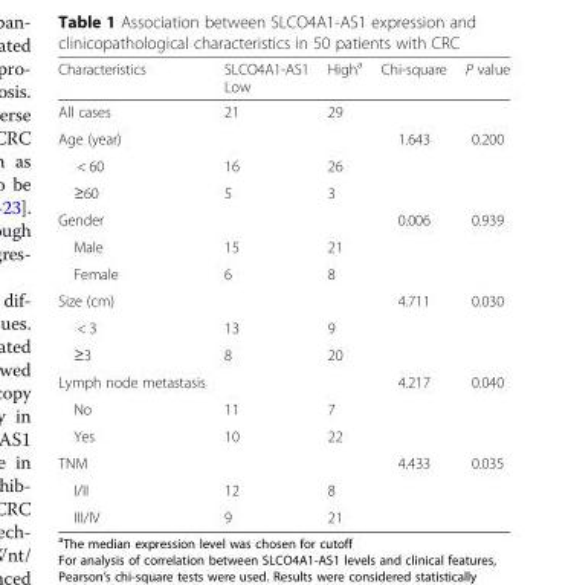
<table><thead><tr><td>Characteristics</td><td>SLCO4A1-AS1 Low</td><td>High<sup>a</sup></td><td>Chi-square</td><td>P value</td></tr></thead><tbody><tr><td>All cases</td><td>21</td><td>29</td><td></td><td></td></tr><tr><td>Age (year)</td><td></td><td></td><td>1.643</td><td>0.200</td></tr><tr><td>&lt; 60</td><td>16</td><td>26</td><td></td><td></td></tr><tr><td>≥60</td><td>5</td><td>3</td><td></td><td></td></tr><tr><td>Gender</td><td></td><td></td><td>0.006</td><td>0.939</td></tr><tr><td>Male</td><td>15</td><td>21</td><td></td><td></td></tr><tr><td>Female</td><td>6</td><td>8</td><td></td><td></td></tr><tr><td>Size (cm)</td><td></td><td></td><td>4.711</td><td>0.030</td></tr><tr><td>&lt; 3</td><td>13</td><td>9</td><td></td><td></td></tr><tr><td>≥3</td><td>8</td><td>20</td><td></td><td></td></tr><tr><td>Lymph node metastasis</td><td></td><td></td><td>4.217</td><td>0.040</td></tr><tr><td>No</td><td>11</td><td>7</td><td></td><td></td></tr><tr><td>Yes</td><td>10</td><td>22</td><td></td><td></td></tr><tr><td>TNM</td><td></td><td></td><td>4.433</td><td>0.035</td></tr><tr><td>I/II</td><td>12</td><td>8</td><td></td><td></td></tr><tr><td>III/IV</td><td>9</td><td>21</td><td></td><td></td></tr></tbody></table>